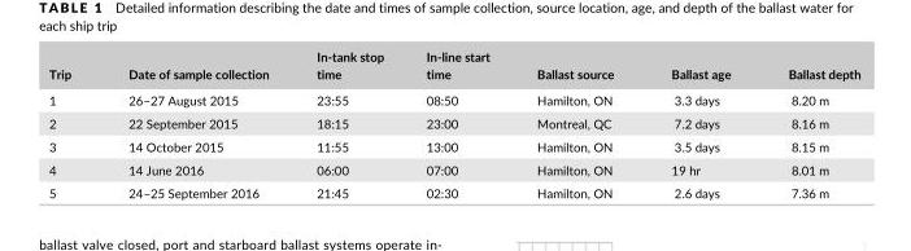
<table><thead><tr><td>Trip</td><td>Date of sample collection</td><td>In- tank stop time</td><td>In- line start time</td><td>Ballast source</td><td>Ballast age</td><td>Ballast depth</td></tr></thead><tbody><tr><td>1</td><td>26–27 August 2015</td><td>23:55</td><td>08:50</td><td>Hamilton, ON</td><td>3.3 days</td><td>8.20 m</td></tr><tr><td>2</td><td>22 September 2015</td><td>18:15</td><td>23:00</td><td>Montreal, QC</td><td>7.2 days</td><td>8.16 m</td></tr><tr><td>3</td><td>14 October 2015</td><td>11:55</td><td>13:00</td><td>Hamilton, ON</td><td>3.5 days</td><td>8.15 m</td></tr><tr><td>4</td><td>14 June 2016</td><td>06:00</td><td>07:00</td><td>Hamilton, ON</td><td>19 hr</td><td>8.01 m</td></tr><tr><td>5</td><td>24–25 September 2016</td><td>21:45</td><td>02:30</td><td>Hamilton, ON</td><td>2.6 days</td><td>7.36 m</td></tr></tbody></table>